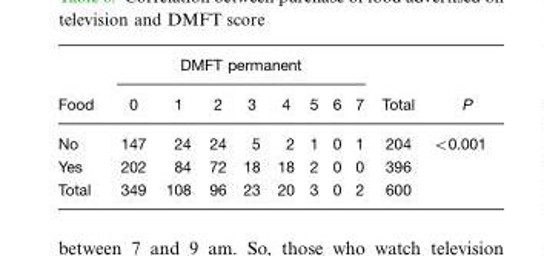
<table><thead><tr><td rowspan="2">Food</td><td colspan="8">DMFT permanent</td><td rowspan="2">Total</td><td rowspan="2">P</td></tr><tr><td>0</td><td>1</td><td>2</td><td>3</td><td>4</td><td>5</td><td>6</td><td>7</td></tr></thead><tbody><tr><td>No</td><td>147</td><td>24</td><td>24</td><td>5</td><td>2</td><td>1</td><td>0</td><td>1</td><td>204</td><td>&lt;0.001</td></tr><tr><td>Yes</td><td>202</td><td>84</td><td>72</td><td>18</td><td>18</td><td>2</td><td>0</td><td>0</td><td>396</td><td></td></tr><tr><td>Total</td><td>349</td><td>108</td><td>96</td><td>23</td><td>20</td><td>3</td><td>0</td><td>2</td><td>600</td><td></td></tr></tbody></table>